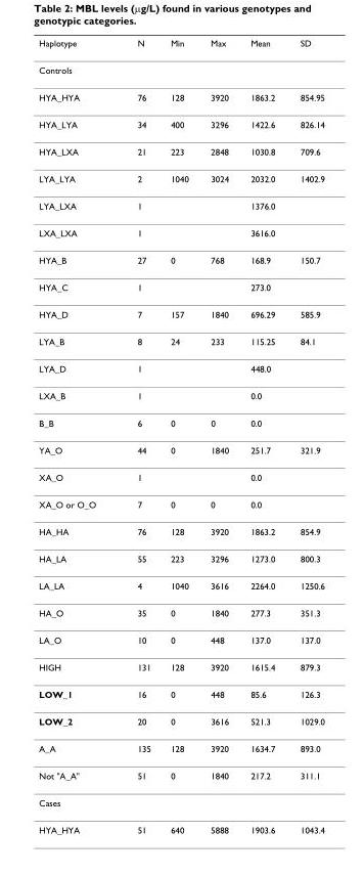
<table><thead><tr><td>Haplotype</td><td>N</td><td>Min</td><td>Max</td><td>Mean</td><td>SD</td></tr></thead><tbody><tr><td colspan="6">Controls</td></tr><tr><td>HYA_HYA</td><td>76</td><td>128</td><td>3920</td><td>1863.2</td><td>854.95</td></tr><tr><td>HYA_LYA</td><td>34</td><td>400</td><td>3296</td><td>1422.6</td><td>826.14</td></tr><tr><td>HYA_LXA</td><td>21</td><td>223</td><td>2848</td><td>1030.8</td><td>709.6</td></tr><tr><td>LYA_LYA</td><td>2</td><td>1040</td><td>3024</td><td>2032.0</td><td>1402.9</td></tr><tr><td>LYA_LXA</td><td>1</td><td></td><td></td><td>1376.0</td><td></td></tr><tr><td>LXA_LXA</td><td>1</td><td></td><td></td><td>3616.0</td><td></td></tr><tr><td>HYA_B</td><td>27</td><td>0</td><td>768</td><td>168.9</td><td>150.7</td></tr><tr><td>HYA_C</td><td>1</td><td></td><td></td><td>273.0</td><td></td></tr><tr><td>HYA_D</td><td>7</td><td>157</td><td>1840</td><td>696.29</td><td>585.9</td></tr><tr><td>LYA_B</td><td>8</td><td>24</td><td>233</td><td>115.25</td><td>84.1</td></tr><tr><td>LYA_D</td><td>1</td><td></td><td></td><td>448.0</td><td></td></tr><tr><td>LXA_B</td><td>1</td><td></td><td></td><td>0.0</td><td></td></tr><tr><td>B_B</td><td>6</td><td>0</td><td>0</td><td>0.0</td><td></td></tr><tr><td>YA_O</td><td>44</td><td>0</td><td>1840</td><td>251.7</td><td>321.9</td></tr><tr><td>XA_O</td><td>1</td><td></td><td></td><td>0.0</td><td></td></tr><tr><td>XA_O or O_O</td><td>7</td><td>0</td><td>0</td><td>0.0</td><td></td></tr><tr><td>HA_HA</td><td>76</td><td>128</td><td>3920</td><td>1863.2</td><td>854.9</td></tr><tr><td>HA_LA</td><td>55</td><td>223</td><td>3296</td><td>1273.0</td><td>800.3</td></tr><tr><td>LA_LA</td><td>4</td><td>1040</td><td>3616</td><td>2264.0</td><td>1250.6</td></tr><tr><td>HA_O</td><td>35</td><td>0</td><td>1840</td><td>277.3</td><td>351.3</td></tr><tr><td>LA_O</td><td>10</td><td>0</td><td>448</td><td>137.0</td><td>137.0</td></tr><tr><td>HIGH</td><td>131</td><td>128</td><td>3920</td><td>1615.4</td><td>879.3</td></tr><tr><td>LOW_1</td><td>16</td><td>0</td><td>448</td><td>85.6</td><td>126.3</td></tr><tr><td>LOW_2</td><td>20</td><td>0</td><td>3616</td><td>521.3</td><td>1029.0</td></tr><tr><td>A_A</td><td>135</td><td>128</td><td>3920</td><td>1634.7</td><td>893.0</td></tr><tr><td>Not &quot;A_A&quot;</td><td>51</td><td>0</td><td>1840</td><td>217.2</td><td>311.1</td></tr><tr><td colspan="6">Cases</td></tr><tr><td>HYA_HYA</td><td>51</td><td>640</td><td>5888</td><td>1903.6</td><td>1043.4</td></tr></tbody></table>